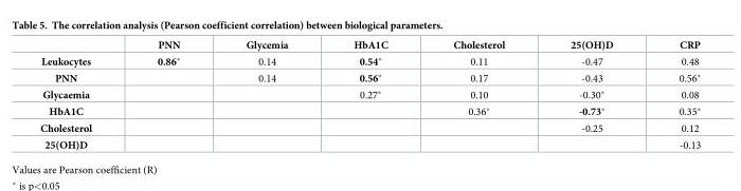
<table><thead><tr><td></td><td>PNN</td><td>Glycemia</td><td>HbA1C</td><td>Cholesterol</td><td>25(OH)D</td><td>CRP</td></tr></thead><tbody><tr><td>Leukocytes</td><td>0.86*</td><td>0.14</td><td>0.54*</td><td>0.11</td><td>-0.47</td><td>0.48</td></tr><tr><td>PNN</td><td></td><td>0.14</td><td>0.56*</td><td>0.17</td><td>-0.43</td><td>0.56*</td></tr><tr><td>Glycaemia</td><td></td><td></td><td>0.27*</td><td>0.10</td><td>-0.30*</td><td>0.08</td></tr><tr><td>HbA1C</td><td></td><td></td><td></td><td>0.36*</td><td>-0.73*</td><td>0.35*</td></tr><tr><td>Cholesterol</td><td></td><td></td><td></td><td></td><td>-0.25</td><td>0.12</td></tr><tr><td>25(OH)D</td><td></td><td></td><td></td><td></td><td></td><td>-0.13</td></tr></tbody></table>